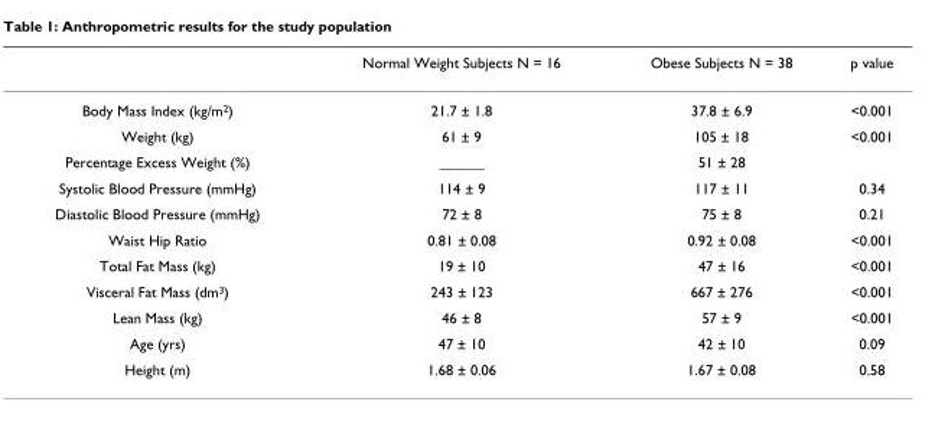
<table><thead><tr><td></td><td>Normal Weight Subjects N = 16</td><td>Obese Subjects N = 38</td><td>p value</td></tr></thead><tbody><tr><td>Body Mass Index (kg/m<sup>2</sup>)</td><td>21.7 ± 1.8</td><td>37.8 ± 6.9</td><td>&lt;0.001</td></tr><tr><td>Weight (kg)</td><td>61 ± 9</td><td>105 ± 18</td><td>&lt;0.001</td></tr><tr><td>Percentage Excess Weight (%)</td><td>______</td><td>51 ± 28</td><td></td></tr><tr><td>Systolic Blood Pressure (mmHg)</td><td>114 ± 9</td><td>117 ± 11</td><td>0.34</td></tr><tr><td>Diastolic Blood Pressure (mmHg)</td><td>72 ± 8</td><td>75 ± 8</td><td>0.21</td></tr><tr><td>Waist Hip Ratio</td><td>0.81 ± 0.08</td><td>0.92 ± 0.08</td><td>&lt;0.001</td></tr><tr><td>Total Fat Mass (kg)</td><td>19 ± 10</td><td>47 ± 16</td><td>&lt;0.001</td></tr><tr><td>Visceral Fat Mass (dm<sup>3</sup>)</td><td>243 ± 123</td><td>667 ± 276</td><td>&lt;0.001</td></tr><tr><td>Lean Mass (kg)</td><td>46 ± 8</td><td>57 ± 9</td><td>&lt;0.001</td></tr><tr><td>Age (yrs)</td><td>47 ± 10</td><td>42 ± 10</td><td>0.09</td></tr><tr><td>Height (m)</td><td>1.68 ± 0.06</td><td>1.67 ± 0.08</td><td>0.58</td></tr></tbody></table>